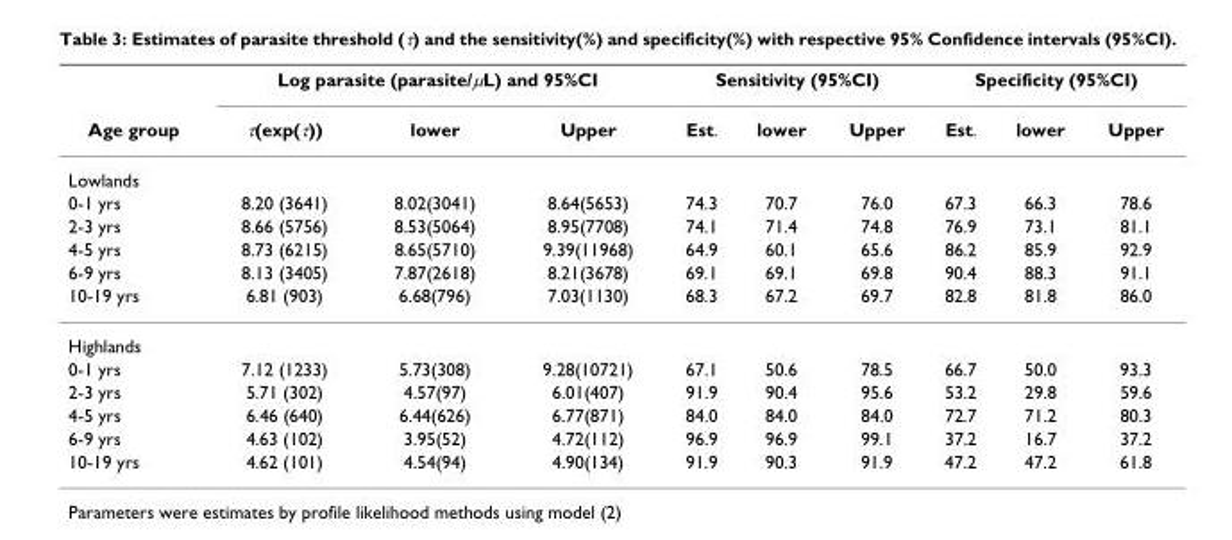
<table><thead><tr><td rowspan="2">Age group</td><td colspan="3">Log parasite (parasite/μL) and 95%CI</td><td colspan="3">Sensitivity (95%CI)</td><td colspan="3">Specificity (95%CI)</td></tr><tr><td>τ(exp(τ))</td><td>lower</td><td>Upper</td><td>Est.</td><td>lower</td><td>Upper</td><td>Est.</td><td>lower</td><td>Upper</td></tr></thead><tbody><tr><td colspan="10">Lowlands</td></tr><tr><td>0-1 yrs</td><td>8.20 (3641)</td><td>8.02(3041)</td><td>8.64(5653)</td><td>74.3</td><td>70.7</td><td>76.0</td><td>67.3</td><td>66.3</td><td>78.6</td></tr><tr><td>2-3 yrs</td><td>8.66 (5756)</td><td>8.53(5064)</td><td>8.95(7708)</td><td>74.1</td><td>71.4</td><td>74.8</td><td>76.9</td><td>73.1</td><td>81.1</td></tr><tr><td>4-5 yrs</td><td>8.73 (6215)</td><td>8.65(5710)</td><td>9.39(11968)</td><td>64.9</td><td>60.1</td><td>65.6</td><td>86.2</td><td>85.9</td><td>92.9</td></tr><tr><td>6-9 yrs</td><td>8.13 (3405)</td><td>7.87(2618)</td><td>8.21(3678)</td><td>69.1</td><td>69.1</td><td>69.8</td><td>90.4</td><td>88.3</td><td>91.1</td></tr><tr><td>10-19 yrs</td><td>6.81 (903)</td><td>6.68(796)</td><td>7.03(1130)</td><td>68.3</td><td>67.2</td><td>69.7</td><td>82.8</td><td>81.8</td><td>86.0</td></tr><tr><td colspan="10">Highlands</td></tr><tr><td>0-1 yrs</td><td>7.12 (1233)</td><td>5.73(308)</td><td>9.28(10721)</td><td>67.1</td><td>50.6</td><td>78.5</td><td>66.7</td><td>50.0</td><td>93.3</td></tr><tr><td>2-3 yrs</td><td>5.71 (302)</td><td>4.57(97)</td><td>6.01(407)</td><td>91.9</td><td>90.4</td><td>95.6</td><td>53.2</td><td>29.8</td><td>59.6</td></tr><tr><td>4-5 yrs</td><td>6.46 (640)</td><td>6.44(626)</td><td>6.77(871)</td><td>84.0</td><td>84.0</td><td>84.0</td><td>72.7</td><td>71.2</td><td>80.3</td></tr><tr><td>6-9 yrs</td><td>4.63 (102)</td><td>3.95(52)</td><td>4.72(112)</td><td>96.9</td><td>96.9</td><td>99.1</td><td>37.2</td><td>16.7</td><td>37.2</td></tr><tr><td>10-19 yrs</td><td>4.62 (101)</td><td>4.54(94)</td><td>4.90(134)</td><td>91.9</td><td>90.3</td><td>91.9</td><td>47.2</td><td>47.2</td><td>61.8</td></tr></tbody></table>